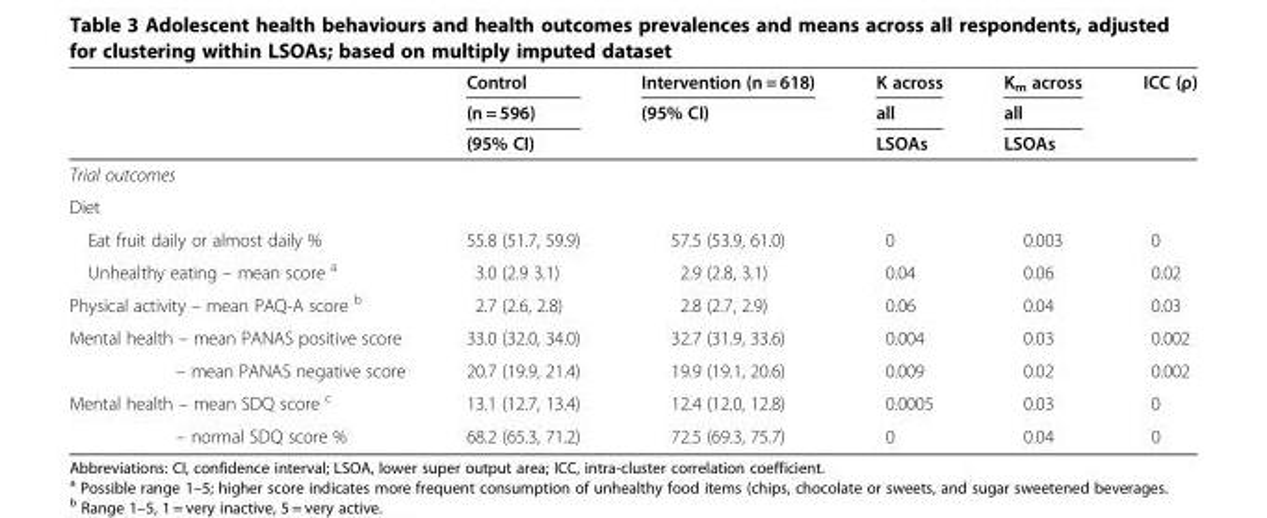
<table><thead><tr><td rowspan="3"></td><td rowspan="3">Control (n = 596) (95% CI)</td><td rowspan="3">Intervention (n = 618) (95% CI)</td><td rowspan="3">K across all LSOAs</td><td rowspan="3">K<sub>m</sub> across all LSOAs</td><td rowspan="3">ICC (ρ)</td></tr><tr></tr><tr></tr></thead><tbody><tr><td colspan="6">Trial outcomes</td></tr><tr><td colspan="6">Diet</td></tr><tr><td>Eat fruit daily or almost daily %</td><td>55.8 (51.7, 59.9)</td><td>57.5 (53.9, 61.0)</td><td>0</td><td>0.003</td><td>0</td></tr><tr><td>Unhealthy eating – mean score <sup>a</sup></td><td>3.0 (2.9 3.1)</td><td>2.9 (2.8, 3.1)</td><td>0.04</td><td>0.06</td><td>0.02</td></tr><tr><td>Physical activity – mean PAQ-A score <sup>b</sup></td><td>2.7 (2.6, 2.8)</td><td>2.8 (2.7, 2.9)</td><td>0.06</td><td>0.04</td><td>0.03</td></tr><tr><td>Mental health – mean PANAS positive score</td><td>33.0 (32.0, 34.0)</td><td>32.7 (31.9, 33.6)</td><td>0.004</td><td>0.03</td><td>0.002</td></tr><tr><td>– mean PANAS negative score</td><td>20.7 (19.9, 21.4)</td><td>19.9 (19.1, 20.6)</td><td>0.009</td><td>0.02</td><td>0.002</td></tr><tr><td>Mental health – mean SDQ score <sup>c</sup></td><td>13.1 (12.7, 13.4)</td><td>12.4 (12.0, 12.8)</td><td>0.0005</td><td>0.03</td><td>0</td></tr><tr><td>– normal SDQ score %</td><td>68.2 (65.3, 71.2)</td><td>72.5 (69.3, 75.7)</td><td>0</td><td>0.04</td><td>0</td></tr></tbody></table>